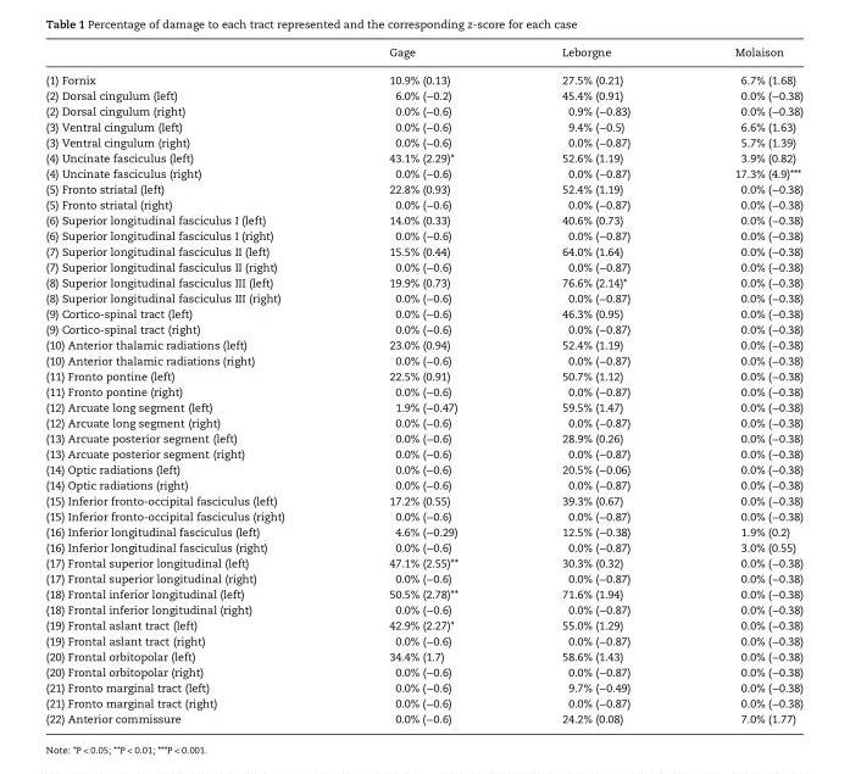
<table><thead><tr><td></td><td>Gage</td><td>Leborgne</td><td>Molaison</td></tr></thead><tbody><tr><td>(1) Fornix</td><td>10.9% (0.13)</td><td>27.5% (0.21)</td><td>6.7% (1.68)</td></tr><tr><td>(2) Dorsal cingulum (left)</td><td>6.0% (−0.2)</td><td>45.4% (0.91)</td><td>0.0% (−0.38)</td></tr><tr><td>(2) Dorsal cingulum (right)</td><td>0.0% (−0.6)</td><td>0.9% (−0.83)</td><td>0.0% (−0.38)</td></tr><tr><td>(3) Ventral cingulum (left)</td><td>0.0% (−0.6)</td><td>9.4% (−0.5)</td><td>6.6% (1.63)</td></tr><tr><td>(3) Ventral cingulum (right)</td><td>0.0% (−0.6)</td><td>0.0% (−0.87)</td><td>5.7% (1.39)</td></tr><tr><td>(4) Uncinate fasciculus (left)</td><td>43.1% (2.29)*</td><td>52.6% (1.19)</td><td>3.9% (0.82)</td></tr><tr><td>(4) Uncinate fasciculus (right)</td><td>0.0% (−0.6)</td><td>0.0% (−0.87)</td><td>17.3% (4.9)***</td></tr><tr><td>(5) Fronto striatal (left)</td><td>22.8% (0.93)</td><td>52.4% (1.19)</td><td>0.0% (−0.38)</td></tr><tr><td>(5) Fronto striatal (right)</td><td>0.0% (−0.6)</td><td>0.0% (−0.87)</td><td>0.0% (−0.38)</td></tr><tr><td>(6) Superior longitudinal fasciculus I (left)</td><td>14.0% (0.33)</td><td>40.6% (0.73)</td><td>0.0% (−0.38)</td></tr><tr><td>(6) Superior longitudinal fasciculus I (right)</td><td>0.0% (−0.6)</td><td>0.0% (−0.87)</td><td>0.0% (−0.38)</td></tr><tr><td>(7) Superior longitudinal fasciculus II (left)</td><td>15.5% (0.44)</td><td>64.0% (1.64)</td><td>0.0% (−0.38)</td></tr><tr><td>(7) Superior longitudinal fasciculus II (right)</td><td>0.0% (−0.6)</td><td>0.0% (−0.87)</td><td>0.0% (−0.38)</td></tr><tr><td>(8) Superior longitudinal fasciculus III (left)</td><td>19.9% (0.73)</td><td>76.6% (2.14)*</td><td>0.0% (−0.38)</td></tr><tr><td>(8) Superior longitudinal fasciculus III (right)</td><td>0.0% (−0.6)</td><td>0.0% (−0.87)</td><td>0.0% (−0.38)</td></tr><tr><td>(9) Cortico-spinal tract (left)</td><td>0.0% (−0.6)</td><td>46.3% (0.95)</td><td>0.0% (−0.38)</td></tr><tr><td>(9) Cortico-spinal tract (right)</td><td>0.0% (−0.6)</td><td>0.0% (−0.87)</td><td>0.0% (−0.38)</td></tr><tr><td>(10) Anterior thalamic radiations (left)</td><td>23.0% (0.94)</td><td>52.4% (1.19)</td><td>0.0% (−0.38)</td></tr><tr><td>(10) Anterior thalamic radiations (right)</td><td>0.0% (−0.6)</td><td>0.0% (−0.87)</td><td>0.0% (−0.38)</td></tr><tr><td>(11) Fronto pontine (left)</td><td>22.5% (0.91)</td><td>50.7% (1.12)</td><td>0.0% (−0.38)</td></tr><tr><td>(11) Fronto pontine (right)</td><td>0.0% (−0.6)</td><td>0.0% (−0.87)</td><td>0.0% (−0.38)</td></tr><tr><td>(12) Arcuate long segment (left)</td><td>1.9% (−0.47)</td><td>59.5% (1.47)</td><td>0.0% (−0.38)</td></tr><tr><td>(12) Arcuate long segment (right)</td><td>0.0% (−0.6)</td><td>0.0% (−0.87)</td><td>0.0% (−0.38)</td></tr><tr><td>(13) Arcuate posterior segment (left)</td><td>0.0% (−0.6)</td><td>28.9% (0.26)</td><td>0.0% (−0.38)</td></tr><tr><td>(13) Arcuate posterior segment (right)</td><td>0.0% (−0.6)</td><td>0.0% (−0.87)</td><td>0.0% (−0.38)</td></tr><tr><td>(14) Optic radiations (left)</td><td>0.0% (−0.6)</td><td>20.5% (−0.06)</td><td>0.0% (−0.38)</td></tr><tr><td>(14) Optic radiations (right)</td><td>0.0% (−0.6)</td><td>0.0% (−0.87)</td><td>0.0% (−0.38)</td></tr><tr><td>(15) Inferior fronto-occipital fasciculus (left)</td><td>17.2% (0.55)</td><td>39.3% (0.67)</td><td>0.0% (−0.38)</td></tr><tr><td>(15) Inferior fronto-occipital fasciculus (right)</td><td>0.0% (−0.6)</td><td>0.0% (−0.87)</td><td>0.0% (−0.38)</td></tr><tr><td>(16) Inferior longitudinal fasciculus (left)</td><td>4.6% (−0.29)</td><td>12.5% (−0.38)</td><td>1.9% (0.2)</td></tr><tr><td>(16) Inferior longitudinal fasciculus (right)</td><td>0.0% (−0.6)</td><td>0.0% (−0.87)</td><td>3.0% (0.55)</td></tr><tr><td>(17) Frontal superior longitudinal (left)</td><td>47.1% (2.55)**</td><td>30.3% (0.32)</td><td>0.0% (−0.38)</td></tr><tr><td>(17) Frontal superior longitudinal (right)</td><td>0.0% (−0.6)</td><td>0.0% (−0.87)</td><td>0.0% (−0.38)</td></tr><tr><td>(18) Frontal inferior longitudinal (left)</td><td>50.5% (2.78)**</td><td>71.6% (1.94)</td><td>0.0% (−0.38)</td></tr><tr><td>(18) Frontal inferior longitudinal (right)</td><td>0.0% (−0.6)</td><td>0.0% (−0.87)</td><td>0.0% (−0.38)</td></tr><tr><td>(19) Frontal aslant tract (left)</td><td>42.9% (2.27)*</td><td>55.0% (1.29)</td><td>0.0% (−0.38)</td></tr><tr><td>(19) Frontal aslant tract (right)</td><td>0.0% (−0.6)</td><td>0.0% (−0.87)</td><td>0.0% (−0.38)</td></tr><tr><td>(20) Frontal orbitopolar (left)</td><td>34.4% (1.7)</td><td>58.6% (1.43)</td><td>0.0% (−0.38)</td></tr><tr><td>(20) Frontal orbitopolar (right)</td><td>0.0% (−0.6)</td><td>0.0% (−0.87)</td><td>0.0% (−0.38)</td></tr><tr><td>(21) Fronto marginal tract (left)</td><td>0.0% (−0.6)</td><td>9.7% (−0.49)</td><td>0.0% (−0.38)</td></tr><tr><td>(21) Fronto marginal tract (right)</td><td>0.0% (−0.6)</td><td>0.0% (−0.87)</td><td>0.0% (−0.38)</td></tr><tr><td>(22) Anterior commissure</td><td>0.0% (−0.6)</td><td>24.2% (0.08)</td><td>7.0% (1.77)</td></tr></tbody></table>